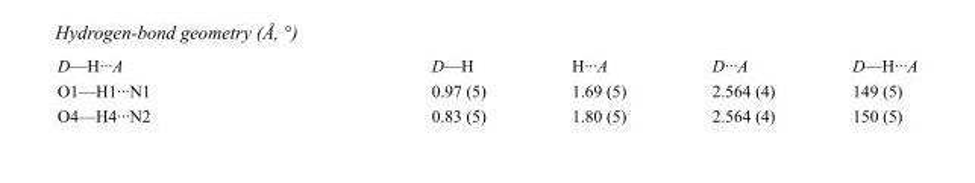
<table><tbody><tr><td>D—H···A</td><td>D—H</td><td>H···A</td><td>D···A</td><td>D—H···A</td></tr><tr><td>O1—H1···N1</td><td>0.97 (5)</td><td>1.69 (5)</td><td>2.564 (4)</td><td>149 (5)</td></tr><tr><td>O4—H4···N2</td><td>0.83 (5)</td><td>1.80 (5)</td><td>2.564 (4)</td><td>150 (5)</td></tr></tbody></table>